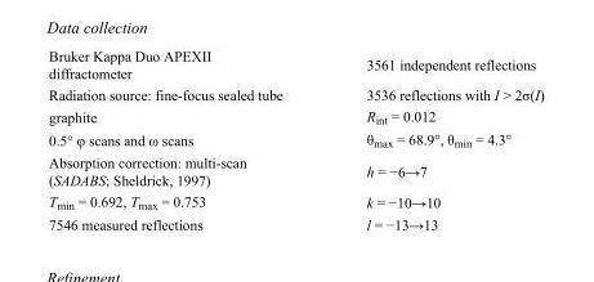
<table><tbody><tr><td>Bruker Kappa Duo APEXII diffractometer</td><td>3561 independent reflections</td></tr><tr><td>Radiation source: fine-focus sealed tube</td><td>3536 reflections with I &gt; 2σ(I)</td></tr><tr><td>graphite</td><td>R<sub>int</sub> = 0.012</td></tr><tr><td>0.5° φ scans and ω scans</td><td>θ<sub>max</sub> = 68.9°, θ<sub>min</sub> = 4.3°</td></tr><tr><td>Absorption correction: multi-scan (SADABS; Sheldrick, 1997)</td><td>h = −6→7</td></tr><tr><td>T<sub>min</sub> = 0.692, T<sub>max</sub> = 0.753</td><td>k = −10→10</td></tr><tr><td>7546 measured reflections</td><td>l = −13→13</td></tr></tbody></table>